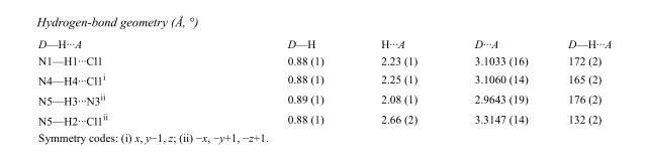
<table><tbody><tr><td>D—H···A</td><td>D—H</td><td>H···A</td><td>D···A</td><td>D—H···A</td></tr><tr><td>N1—H1···Cl1</td><td>0.88 (1)</td><td>2.23 (1)</td><td>3.1033 (16)</td><td>172 (2)</td></tr><tr><td>N4—H4···Cl1<sup>i</sup></td><td>0.88 (1)</td><td>2.25 (1)</td><td>3.1060 (14)</td><td>165 (2)</td></tr><tr><td>N5—H3···N3<sup>ii</sup></td><td>0.89 (1)</td><td>2.08 (1)</td><td>2.9643 (19)</td><td>176 (2)</td></tr><tr><td>N5—H2···Cl1<sup>ii</sup></td><td>0.88 (1)</td><td>2.66 (2)</td><td>3.3147 (14)</td><td>132 (2)</td></tr></tbody></table>